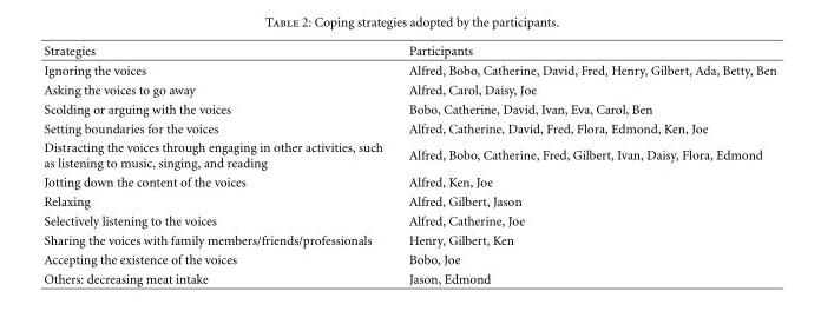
<table><thead><tr><td>Strategies</td><td>Participants</td></tr></thead><tbody><tr><td>Ignoring the voices</td><td>Alfred, Bobo, Catherine, David, Fred, Henry, Gilbert, Ada, Betty, Ben</td></tr><tr><td>Asking the voices to go away</td><td>Alfred, Carol, Daisy, Joe</td></tr><tr><td>Scolding or arguing with the voices</td><td>Bobo, Catherine, David, Ivan, Eva, Carol, Ben</td></tr><tr><td>Setting boundaries for the voices</td><td>Alfred, Catherine, David, Fred, Flora, Edmond, Ken, Joe</td></tr><tr><td>Distracting the voices through engaging in other activities, such as listening to music, singing, and reading</td><td>Alfred, Bobo, Catherine, Fred, Gilbert, Ivan, Daisy, Flora, Edmond</td></tr><tr><td>Jotting down the content of the voices</td><td>Alfred, Ken, Joe</td></tr><tr><td>Relaxing</td><td>Alfred, Gilbert, Jason</td></tr><tr><td>Selectively listening to the voices</td><td>Alfred, Catherine, Joe</td></tr><tr><td>Sharing the voices with family members/friends/professionals</td><td>Henry, Gilbert, Ken</td></tr><tr><td>Accepting the existence of the voices</td><td>Bobo, Joe</td></tr><tr><td>Others: decreasing meat intake</td><td>Jason, Edmond</td></tr></tbody></table>